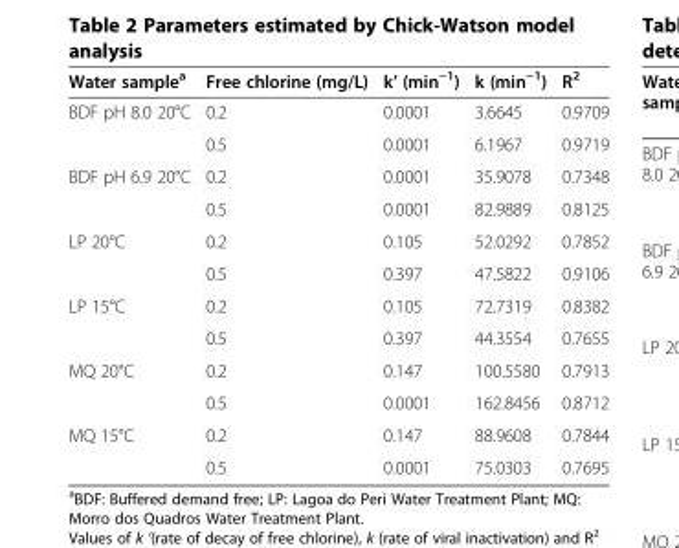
<table><thead><tr><td>Water sample<sup>a</sup></td><td>Free chlorine (mg/L)</td><td>k’ (min<sup>−1</sup>)</td><td>k (min<sup>−1</sup>)</td><td>R<sup>2</sup></td></tr></thead><tbody><tr><td rowspan="2">BDF pH 8.0 20°C</td><td>0.2</td><td>0.0001</td><td>3.6645</td><td>0.9709</td></tr><tr><td>0.5</td><td>0.0001</td><td>6.1967</td><td>0.9719</td></tr><tr><td rowspan="2">BDF pH 6.9 20°C</td><td>0.2</td><td>0.0001</td><td>35.9078</td><td>0.7348</td></tr><tr><td>0.5</td><td>0.0001</td><td>82.9889</td><td>0.8125</td></tr><tr><td rowspan="2">LP 20°C</td><td>0.2</td><td>0.105</td><td>52.0292</td><td>0.7852</td></tr><tr><td>0.5</td><td>0.397</td><td>47.5822</td><td>0.9106</td></tr><tr><td rowspan="2">LP 15°C</td><td>0.2</td><td>0.105</td><td>72.7319</td><td>0.8382</td></tr><tr><td>0.5</td><td>0.397</td><td>44.3554</td><td>0.7655</td></tr><tr><td rowspan="2">MQ 20°C</td><td>0.2</td><td>0.147</td><td>100.5580</td><td>0.7913</td></tr><tr><td>0.5</td><td>0.0001</td><td>162.8456</td><td>0.8712</td></tr><tr><td rowspan="2">MQ 15°C</td><td>0.2</td><td>0.147</td><td>88.9608</td><td>0.7844</td></tr><tr><td>0.5</td><td>0.0001</td><td>75.0303</td><td>0.7695</td></tr></tbody></table>